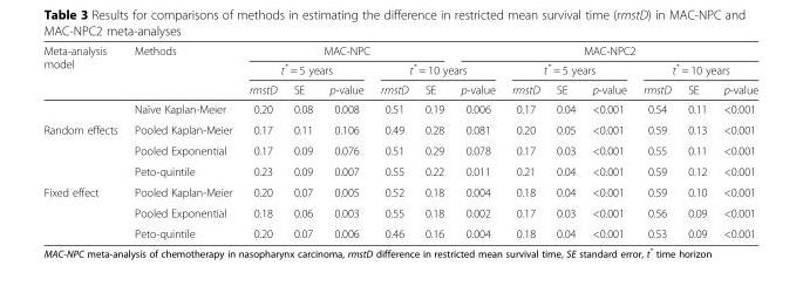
<table><thead><tr><td rowspan="3">Meta-analysis model</td><td rowspan="3">Methods</td><td colspan="5">MAC-NPC</td><td colspan="7">MAC-NPC2</td></tr><tr><td colspan="3">t* = 5 years</td><td colspan="3">t* = 10 years</td><td colspan="3">t* = 5 years</td><td colspan="3">t* = 10 years</td></tr><tr><td>rmstD</td><td>SE</td><td>p-value</td><td>rmstD</td><td>SE</td><td>p-value</td><td>rmstD</td><td>SE</td><td>p-value</td><td>rmstD</td><td>SE</td><td>p-value</td></tr></thead><tbody><tr><td></td><td>Naïve Kaplan-Meier</td><td>0.20</td><td>0.08</td><td>0.008</td><td>0.51</td><td>0.19</td><td>0.006</td><td>0.17</td><td>0.04</td><td>&lt;0.001</td><td>0.54</td><td>0.11</td><td>&lt;0.001</td></tr><tr><td rowspan="3">Random effects</td><td>Pooled Kaplan-Meier</td><td>0.17</td><td>0.11</td><td>0.106</td><td>0.49</td><td>0.28</td><td>0.081</td><td>0.20</td><td>0.05</td><td>&lt;0.001</td><td>0.59</td><td>0.13</td><td>&lt;0.001</td></tr><tr><td>Pooled Exponential</td><td>0.17</td><td>0.09</td><td>0.076</td><td>0.51</td><td>0.29</td><td>0.078</td><td>0.17</td><td>0.03</td><td>&lt;0.001</td><td>0.55</td><td>0.11</td><td>&lt;0.001</td></tr><tr><td>Peto-quintile</td><td>0.23</td><td>0.09</td><td>0.007</td><td>0.55</td><td>0.22</td><td>0.011</td><td>0.21</td><td>0.04</td><td>&lt;0.001</td><td>0.59</td><td>0.12</td><td>&lt;0.001</td></tr><tr><td rowspan="3">Fixed effect</td><td>Pooled Kaplan-Meier</td><td>0.20</td><td>0.07</td><td>0.005</td><td>0.52</td><td>0.18</td><td>0.004</td><td>0.18</td><td>0.04</td><td>&lt;0.001</td><td>0.59</td><td>0.10</td><td>&lt;0.001</td></tr><tr><td>Pooled Exponential</td><td>0.18</td><td>0.06</td><td>0.003</td><td>0.55</td><td>0.18</td><td>0.002</td><td>0.17</td><td>0.03</td><td>&lt;0.001</td><td>0.56</td><td>0.09</td><td>&lt;0.001</td></tr><tr><td>Peto-quintile</td><td>0.20</td><td>0.07</td><td>0.006</td><td>0.46</td><td>0.16</td><td>0.004</td><td>0.18</td><td>0.04</td><td>&lt;0.001</td><td>0.53</td><td>0.09</td><td>&lt;0.001</td></tr></tbody></table>